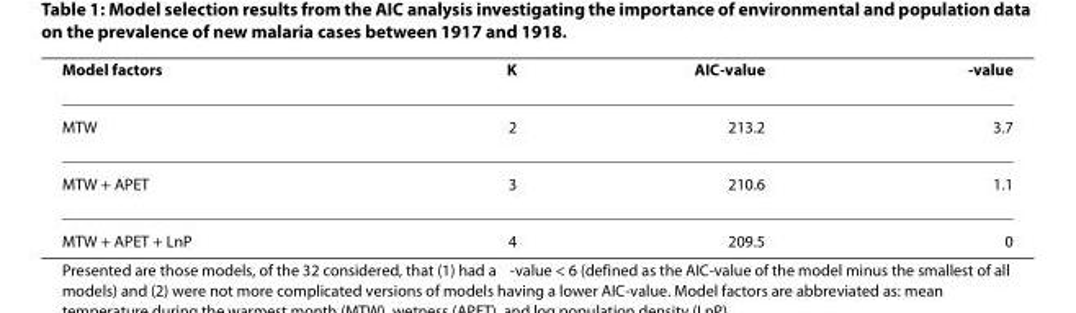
<table><thead><tr><td>Model factors</td><td>K</td><td>AIC-value</td><td>-value</td></tr></thead><tbody><tr><td>MTW</td><td>2</td><td>213.2</td><td>3.7</td></tr><tr><td>MTW + APET</td><td>3</td><td>210.6</td><td>1.1</td></tr><tr><td>MTW + APET + LnP</td><td>4</td><td>209.5</td><td>0</td></tr></tbody></table>